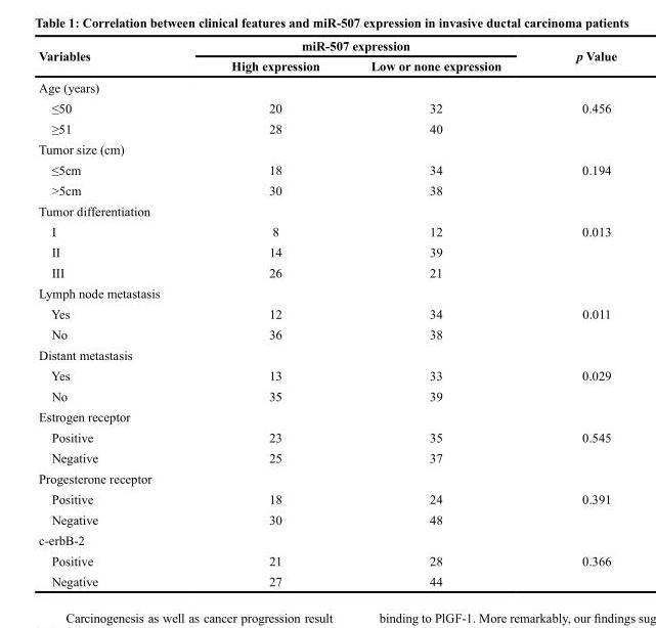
<table><thead><tr><td rowspan="2">Variables</td><td colspan="2">miR-507 expression</td><td rowspan="2">p Value</td></tr><tr><td>High expression</td><td>Low or none expression</td></tr></thead><tbody><tr><td colspan="4">Age (years)</td></tr><tr><td>≤50</td><td>20</td><td>32</td><td>0.456</td></tr><tr><td>≥51</td><td>28</td><td>40</td><td></td></tr><tr><td colspan="4">Tumor size (cm)</td></tr><tr><td>≤5cm</td><td>18</td><td>34</td><td>0.194</td></tr><tr><td>&gt;5cm</td><td>30</td><td>38</td><td></td></tr><tr><td colspan="4">Tumor differentiation</td></tr><tr><td>I</td><td>8</td><td>12</td><td>0.013</td></tr><tr><td>II</td><td>14</td><td>39</td><td></td></tr><tr><td>III</td><td>26</td><td>21</td><td></td></tr><tr><td colspan="4">Lymph node metastasis</td></tr><tr><td>Yes</td><td>12</td><td>34</td><td>0.011</td></tr><tr><td>No</td><td>36</td><td>38</td><td></td></tr><tr><td colspan="4">Distant metastasis</td></tr><tr><td>Yes</td><td>13</td><td>33</td><td>0.029</td></tr><tr><td>No</td><td>35</td><td>39</td><td></td></tr><tr><td colspan="4">Estrogen receptor</td></tr><tr><td>Positive</td><td>23</td><td>35</td><td>0.545</td></tr><tr><td>Negative</td><td>25</td><td>37</td><td></td></tr><tr><td colspan="4">Progesterone receptor</td></tr><tr><td>Positive</td><td>18</td><td>24</td><td>0.391</td></tr><tr><td>Negative</td><td>30</td><td>48</td><td></td></tr><tr><td colspan="4">c-erbB-2</td></tr><tr><td>Positive</td><td>21</td><td>28</td><td>0.366</td></tr><tr><td>Negative</td><td>27</td><td>44</td><td></td></tr></tbody></table>